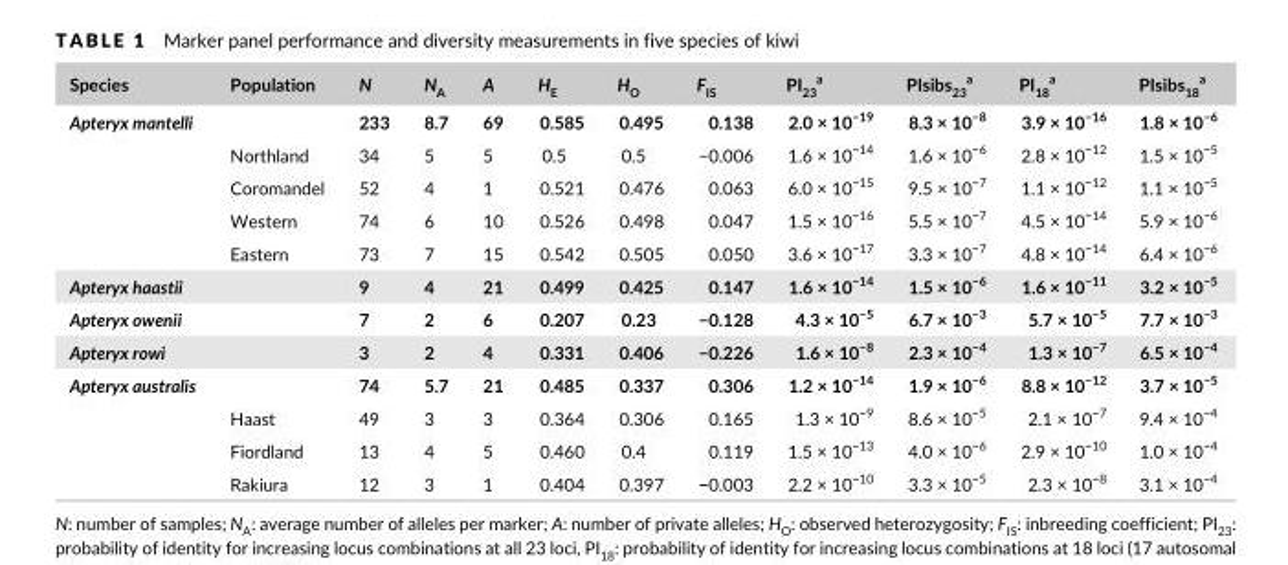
<table><thead><tr><td>Species</td><td>Population</td><td>N</td><td>N<sub>A</sub></td><td>A</td><td>H<sub>E</sub></td><td>H<sub>O</sub></td><td>F<sub>IS</sub></td><td>PI<sub>23</sub> a</td><td>PIsibs<sub>23</sub> a</td><td>PI<sub>18</sub> a</td><td>PIsibs<sub>18</sub> a</td></tr></thead><tbody><tr><td rowspan="5">Apteryx mantelli</td><td></td><td>233</td><td>8.7</td><td>69</td><td>0.585</td><td>0.495</td><td>0.138</td><td>2.0 × 10<sup>−19</sup></td><td>8.3 × 10<sup>−8</sup></td><td>3.9 × 10<sup>−16</sup></td><td>1.8 × 10<sup>−6</sup></td></tr><tr><td>Northland</td><td>34</td><td>5</td><td>5</td><td>0.5</td><td>0.5</td><td>−0.006</td><td>1.6 × 10<sup>−14</sup></td><td>1.6 × 10<sup>−6</sup></td><td>2.8 × 10<sup>−12</sup></td><td>1.5 × 10<sup>−5</sup></td></tr><tr><td>Coromandel</td><td>52</td><td>4</td><td>1</td><td>0.521</td><td>0.476</td><td>0.063</td><td>6.0 × 10<sup>−15</sup></td><td>9.5 × 10<sup>−7</sup></td><td>1.1 × 10<sup>−12</sup></td><td>1.1 × 10<sup>−5</sup></td></tr><tr><td>Western</td><td>74</td><td>6</td><td>10</td><td>0.526</td><td>0.498</td><td>0.047</td><td>1.5 × 10<sup>−16</sup></td><td>5.5 × 10<sup>−7</sup></td><td>4.5 × 10<sup>−14</sup></td><td>5.9 × 10<sup>−6</sup></td></tr><tr><td>Eastern</td><td>73</td><td>7</td><td>15</td><td>0.542</td><td>0.505</td><td>0.050</td><td>3.6 × 10<sup>−17</sup></td><td>3.3 × 10<sup>−7</sup></td><td>4.8 × 10<sup>−14</sup></td><td>6.4 × 10<sup>−6</sup></td></tr><tr><td>Apteryx haastii</td><td></td><td>9</td><td>4</td><td>21</td><td>0.499</td><td>0.425</td><td>0.147</td><td>1.6 × 10<sup>−14</sup></td><td>1.5 × 10<sup>−6</sup></td><td>1.6 × 10<sup>−11</sup></td><td>3.2 × 10<sup>−5</sup></td></tr><tr><td>Apteryx owenii</td><td></td><td>7</td><td>2</td><td>6</td><td>0.207</td><td>0.23</td><td>−0.128</td><td>4.3 × 10<sup>−5</sup></td><td>6.7 × 10<sup>−3</sup></td><td>5.7 × 10<sup>−5</sup></td><td>7.7 × 10<sup>−3</sup></td></tr><tr><td>Apteryx rowi</td><td></td><td>3</td><td>2</td><td>4</td><td>0.331</td><td>0.406</td><td>−0.226</td><td>1.6 × 10<sup>−8</sup></td><td>2.3 × 10<sup>−4</sup></td><td>1.3 × 10<sup>−7</sup></td><td>6.5 × 10<sup>−4</sup></td></tr><tr><td rowspan="4">Apteryx australis</td><td></td><td>74</td><td>5.7</td><td>21</td><td>0.485</td><td>0.337</td><td>0.306</td><td>1.2 × 10<sup>−14</sup></td><td>1.9 × 10<sup>−6</sup></td><td>8.8 × 10<sup>−12</sup></td><td>3.7 × 10<sup>−5</sup></td></tr><tr><td>Haast</td><td>49</td><td>3</td><td>3</td><td>0.364</td><td>0.306</td><td>0.165</td><td>1.3 × 10<sup>−9</sup></td><td>8.6 × 10<sup>−5</sup></td><td>2.1 × 10<sup>−7</sup></td><td>9.4 × 10<sup>−4</sup></td></tr><tr><td>Fiordland</td><td>13</td><td>4</td><td>5</td><td>0.460</td><td>0.4</td><td>0.119</td><td>1.5 × 10<sup>−13</sup></td><td>4.0 × 10<sup>−6</sup></td><td>2.9 × 10<sup>−10</sup></td><td>1.0 × 10<sup>−4</sup></td></tr><tr><td>Rakiura</td><td>12</td><td>3</td><td>1</td><td>0.404</td><td>0.397</td><td>−0.003</td><td>2.2 × 10<sup>−10</sup></td><td>3.3 × 10<sup>−5</sup></td><td>2.3 × 10<sup>−8</sup></td><td>3.1 × 10<sup>−4</sup></td></tr></tbody></table>